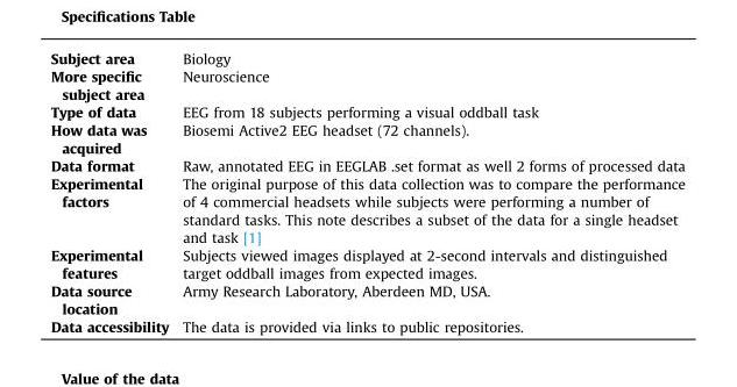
<table><tbody><tr><td>Subject area</td><td>Biology</td></tr><tr><td>More specific subject area</td><td>Neuroscience</td></tr><tr><td>Type of data</td><td>EEG from 18 subjects performing a visual oddball task</td></tr><tr><td>How data was acquired</td><td>Biosemi Active2 EEG headset (72 channels).</td></tr><tr><td>Data format</td><td>Raw, annotated EEG in EEGLAB .set format as well 2 forms of processed data</td></tr><tr><td>Experimental factors</td><td>The original purpose of this data collection was to compare the performance of 4 commercial headsets while subjects were performing a number of standard tasks. This note describes a subset of the data for a single headset and task [1]</td></tr><tr><td>Experimental features</td><td>Subjects viewed images displayed at 2-second intervals and distinguished target oddball images from expected images.</td></tr><tr><td>Data source location</td><td>Army Research Laboratory, Aberdeen MD, USA.</td></tr><tr><td>Data accessibility</td><td>The data is provided via links to public repositories.</td></tr></tbody></table>